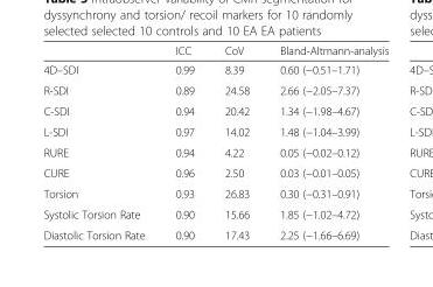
<table><thead><tr><td></td><td>ICC</td><td>CoV</td><td>Bland-Altmann-analysis</td></tr></thead><tbody><tr><td>4D–SDI</td><td>0.99</td><td>8.39</td><td>0.60 (−0.51–1.71)</td></tr><tr><td>R-SDI</td><td>0.89</td><td>24.58</td><td>2.66 (−2.05–7.37)</td></tr><tr><td>C-SDI</td><td>0.94</td><td>20.42</td><td>1.34 (−1.98–4.67)</td></tr><tr><td>L-SDI</td><td>0.97</td><td>14.02</td><td>1.48 (−1.04–3.99)</td></tr><tr><td>RURE</td><td>0.94</td><td>4.22</td><td>0.05 (−0.02–0.12)</td></tr><tr><td>CURE</td><td>0.96</td><td>2.50</td><td>0.03 (−0.01–0.05)</td></tr><tr><td>Torsion</td><td>0.93</td><td>26.83</td><td>0.30 (−0.31–0.91)</td></tr><tr><td>Systolic Torsion Rate</td><td>0.90</td><td>15.66</td><td>1.85 (−1.02–4.72)</td></tr><tr><td>Diastolic Torsion Rate</td><td>0.90</td><td>17.43</td><td>2.25 (−1.66–6.69)</td></tr></tbody></table>